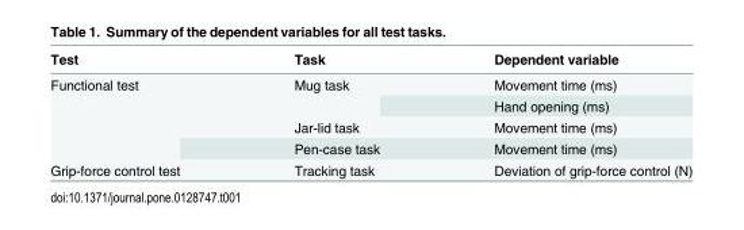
<table><thead><tr><td>Test</td><td>Task</td><td>Dependent variable</td></tr></thead><tbody><tr><td rowspan="4">Functional test</td><td rowspan="2">Mug task</td><td>Movement time (ms)</td></tr><tr><td>Hand opening (ms)</td></tr><tr><td>Jar-lid task</td><td>Movement time (ms)</td></tr><tr><td>Pen-case task</td><td>Movement time (ms)</td></tr><tr><td>Grip-force control test</td><td>Tracking task</td><td>Deviation of grip-force control (N)</td></tr></tbody></table>